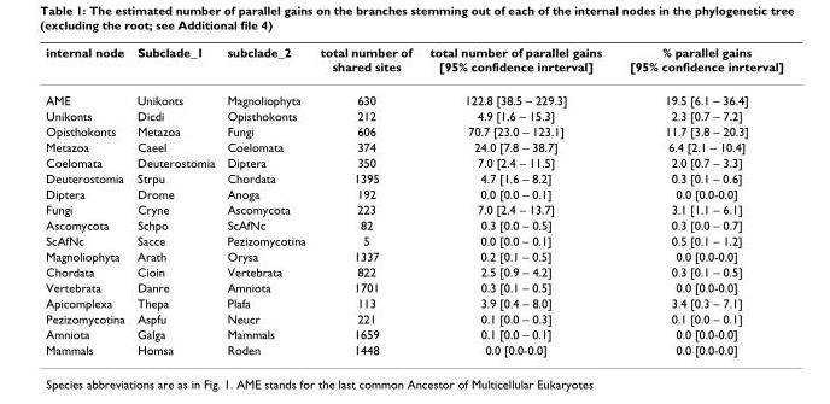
<table><thead><tr><td>internal node</td><td>Subclade_1</td><td>subclade_2</td><td>total number of shared sites</td><td>total number of parallel gains [95% confidence inrterval]</td><td>% parallel gains [95% confidence inrterval]</td></tr></thead><tbody><tr><td>AME</td><td>Unikonts</td><td>Magnoliophyta</td><td>630</td><td>122.8 [38.5 – 229.3]</td><td>19.5 [6.1 – 36.4]</td></tr><tr><td>Unikonts</td><td>Dicdi</td><td>Opisthokonts</td><td>212</td><td>4.9 [1.6 – 15.3]</td><td>2.3 [0.7 – 7.2]</td></tr><tr><td>Opisthokonts</td><td>Metazoa</td><td>Fungi</td><td>606</td><td>70.7 [23.0 – 123.1]</td><td>11.7 [3.8 – 20.3]</td></tr><tr><td>Metazoa</td><td>Caeel</td><td>Coelomata</td><td>374</td><td>24.0 [7.8 – 38.7]</td><td>6.4 [2.1 – 10.4]</td></tr><tr><td>Coelomata</td><td>Deuterostomia</td><td>Diptera</td><td>350</td><td>7.0 [2.4 – 11.5]</td><td>2.0 [0.7 – 3.3]</td></tr><tr><td>Deuterostomia</td><td>Strpu</td><td>Chordata</td><td>1395</td><td>4.7 [1.6 – 8.2]</td><td>0.3 [0.1 – 0.6]</td></tr><tr><td>Diptera</td><td>Drome</td><td>Anoga</td><td>192</td><td>0.0 [0.0 – 0.1]</td><td>0.0 [0.0-0.0]</td></tr><tr><td>Fungi</td><td>Cryne</td><td>Ascomycota</td><td>223</td><td>7.0 [2.4 – 13.7]</td><td>3.1 [1.1 – 6.1]</td></tr><tr><td>Ascomycota</td><td>Schpo</td><td>ScAfNc</td><td>82</td><td>0.3 [0.0 – 0.5]</td><td>0.3 [0.0 – 0.7]</td></tr><tr><td>ScAfNc</td><td>Sacce</td><td>Pezizomycotina</td><td>5</td><td>0.0 [0.0 – 0.1]</td><td>0.5 [0.1 – 1.2]</td></tr><tr><td>Magnoliophyta</td><td>Arath</td><td>Orysa</td><td>1337</td><td>0.2 [0.1 – 0.5]</td><td>0.0 [0.0-0.0]</td></tr><tr><td>Chordata</td><td>Cioin</td><td>Vertebrata</td><td>822</td><td>2.5 [0.9 – 4.2]</td><td>0.3 [0.1 – 0.5]</td></tr><tr><td>Vertebrata</td><td>Danre</td><td>Amniota</td><td>1701</td><td>0.3 [0.1 – 0.5]</td><td>0.0 [0.0-0.0]</td></tr><tr><td>Apicomplexa</td><td>Thepa</td><td>Plafa</td><td>113</td><td>3.9 [0.4 – 8.0]</td><td>3.4 [0.3 – 7.1]</td></tr><tr><td>Pezizomycotina</td><td>Aspfu</td><td>Neucr</td><td>221</td><td>0.1 [0.0 – 0.3]</td><td>0.1 [0.0 – 0.1]</td></tr><tr><td>Amniota</td><td>Galga</td><td>Mammals</td><td>1659</td><td>0.1 [0.0 – 0.1]</td><td>0.0 [0.0-0.0]</td></tr><tr><td>Mammals</td><td>Homsa</td><td>Roden</td><td>1448</td><td>0.0 [0.0-0.0]</td><td>0.0 [0.0-0.0]</td></tr></tbody></table>